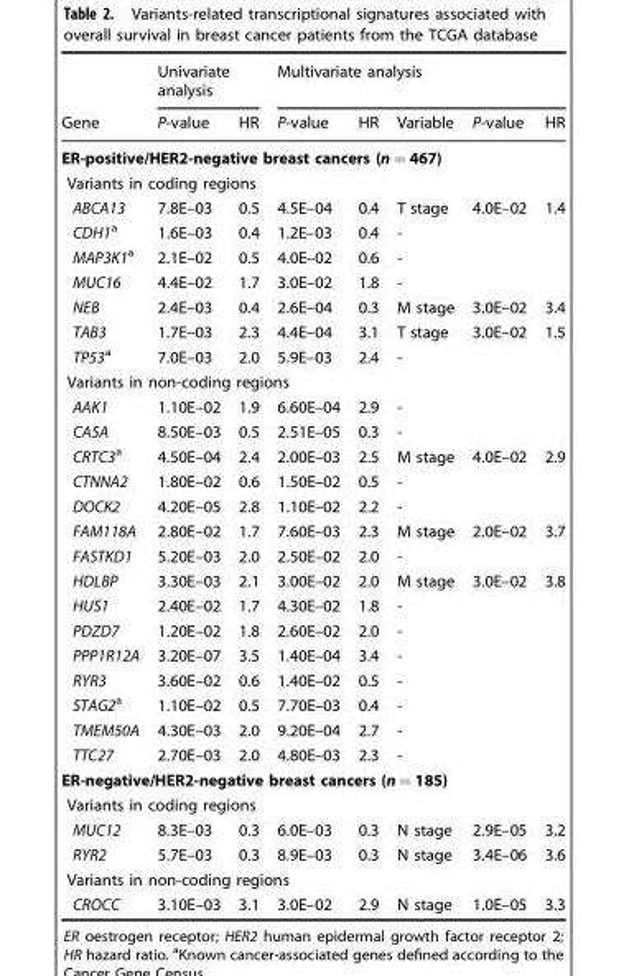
<table><thead><tr><td rowspan="2">Gene</td><td colspan="2">Univariate analysis</td><td colspan="5">Multivariate analysis</td></tr><tr><td>P-value</td><td>HR</td><td>P-value</td><td>HR</td><td>Variable</td><td>P-value</td><td>HR</td></tr></thead><tbody><tr><td colspan="8">ER-positive/HER2-negative breast cancers (n = 467)</td></tr><tr><td colspan="8">Variants in coding regions</td></tr><tr><td>ABCA13</td><td>7.8E–03</td><td>0.5</td><td>4.5E–04</td><td>0.4</td><td>T stage</td><td>4.0E–02</td><td>1.4</td></tr><tr><td>CDH1<sup>a</sup></td><td>1.6E–03</td><td>0.4</td><td>1.2E–03</td><td>0.4</td><td>-</td><td></td><td></td></tr><tr><td>MAP3K1<sup>a</sup></td><td>2.1E–02</td><td>0.5</td><td>4.0E–02</td><td>0.6</td><td>-</td><td></td><td></td></tr><tr><td>MUC16</td><td>4.4E–02</td><td>1.7</td><td>3.0E–02</td><td>1.8</td><td>-</td><td></td><td></td></tr><tr><td>NEB</td><td>2.4E–03</td><td>0.4</td><td>2.6E–04</td><td>0.3</td><td>M stage</td><td>3.0E–02</td><td>3.4</td></tr><tr><td>TAB3</td><td>1.7E–03</td><td>2.3</td><td>4.4E–04</td><td>3.1</td><td>T stage</td><td>3.0E–02</td><td>1.5</td></tr><tr><td>TP53<sup>a</sup></td><td>7.0E–03</td><td>2.0</td><td>5.9E–03</td><td>2.4</td><td>-</td><td></td><td></td></tr><tr><td colspan="8">Variants in non-coding regions</td></tr><tr><td>AAK1</td><td>1.10E–02</td><td>1.9</td><td>6.60E–04</td><td>2.9</td><td>-</td><td></td><td></td></tr><tr><td>CA5A</td><td>8.50E–03</td><td>0.5</td><td>2.51E–05</td><td>0.3</td><td>-</td><td></td><td></td></tr><tr><td>CRTC3<sup>a</sup></td><td>4.50E–04</td><td>2.4</td><td>2.00E–03</td><td>2.5</td><td>M stage</td><td>4.0E–02</td><td>2.9</td></tr><tr><td>CTNNA2</td><td>1.80E–02</td><td>0.6</td><td>1.50E–02</td><td>0.5</td><td>-</td><td></td><td></td></tr><tr><td>DOCK2</td><td>4.20E–05</td><td>2.8</td><td>1.10E–02</td><td>2.2</td><td>-</td><td></td><td></td></tr><tr><td>FAM118A</td><td>2.80E–02</td><td>1.7</td><td>7.60E–03</td><td>2.3</td><td>M stage</td><td>2.0E–02</td><td>3.7</td></tr><tr><td>FASTKD1</td><td>5.20E–03</td><td>2.0</td><td>2.50E–02</td><td>2.0</td><td>-</td><td></td><td></td></tr><tr><td>HDLBP</td><td>3.30E–03</td><td>2.1</td><td>3.00E–02</td><td>2.0</td><td>M stage</td><td>3.0E–02</td><td>3.8</td></tr><tr><td>HUS1</td><td>2.40E–02</td><td>1.7</td><td>4.30E–02</td><td>1.8</td><td>-</td><td></td><td></td></tr><tr><td>PDZD7</td><td>1.20E–02</td><td>1.8</td><td>2.60E–02</td><td>2.0</td><td>-</td><td></td><td></td></tr><tr><td>PPP1R12A</td><td>3.20E–07</td><td>3.5</td><td>1.40E–04</td><td>3.4</td><td>-</td><td></td><td></td></tr><tr><td>RYR3</td><td>3.60E–02</td><td>0.6</td><td>1.40E–02</td><td>0.5</td><td>-</td><td></td><td></td></tr><tr><td>STAG2<sup>a</sup></td><td>1.10E–02</td><td>0.5</td><td>7.70E–03</td><td>0.4</td><td>-</td><td></td><td></td></tr><tr><td>TMEM50A</td><td>4.30E–03</td><td>2.0</td><td>9.20E–04</td><td>2.7</td><td>-</td><td></td><td></td></tr><tr><td>TTC27</td><td>2.70E–03</td><td>2.0</td><td>4.80E–03</td><td>2.3</td><td>-</td><td></td><td></td></tr><tr><td colspan="8">ER-negative/HER2-negative breast cancers (n = 185)</td></tr><tr><td colspan="8">Variants in coding regions</td></tr><tr><td>MUC12</td><td>8.3E–03</td><td>0.3</td><td>6.0E–03</td><td>0.3</td><td>N stage</td><td>2.9E–05</td><td>3.2</td></tr><tr><td>RYR2</td><td>5.7E–03</td><td>0.3</td><td>8.9E–03</td><td>0.3</td><td>N stage</td><td>3.4E–06</td><td>3.6</td></tr><tr><td colspan="8">Variants in non-coding regions</td></tr><tr><td>CROCC</td><td>3.10E–03</td><td>3.1</td><td>3.0E–02</td><td>2.9</td><td>N stage</td><td>1.0E–05</td><td>3.3</td></tr></tbody></table>